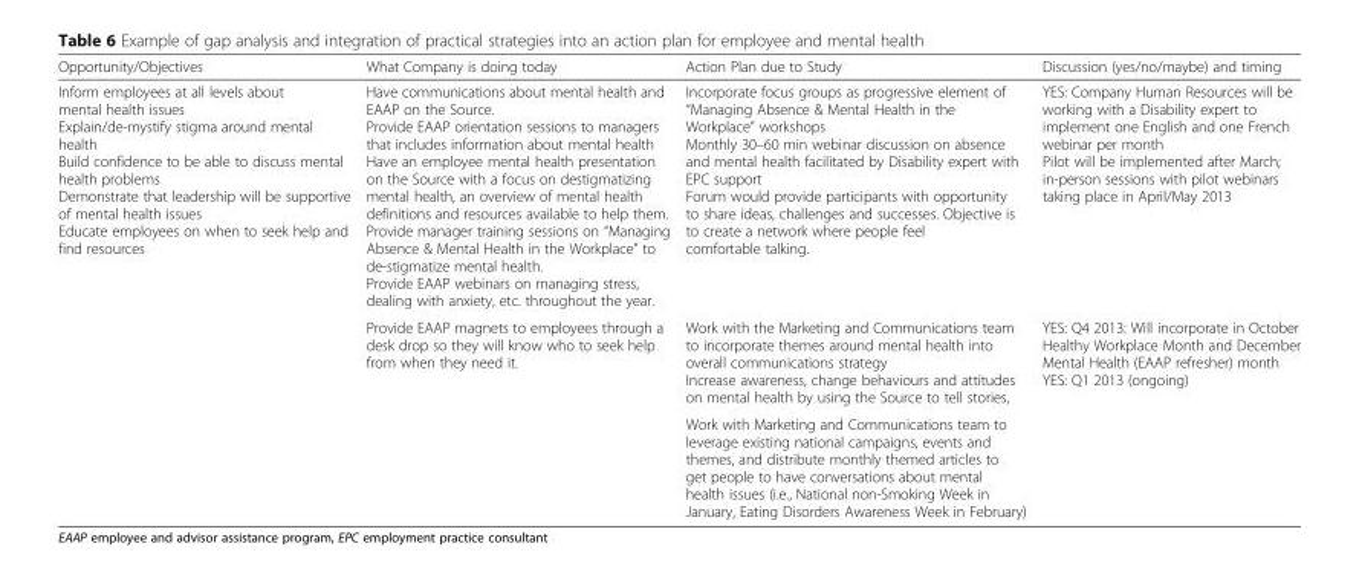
<table><thead><tr><td>Opportunity/Objectives</td><td>What Company is doing today</td><td>Action Plan due to Study</td><td>Discussion (yes/no/maybe) and timing</td></tr></thead><tbody><tr><td rowspan="3">Inform employees at all levels about mental health issues Explain/de-mystify stigma around mental health Build confidence to be able to discuss mental health problems Demonstrate that leadership will be supportive of mental health issues Educate employees on when to seek help and find resources</td><td>Have communications about mental health and EAAP on the Source. Provide EAAP orientation sessions to managers that includes information about mental health Have an employee mental health presentation on the Source with a focus on destigmatizing mental health, an overview of mental health definitions and resources available to help them. Provide manager training sessions on “Managing Absence &amp; Mental Health in the Workplace” to de-stigmatize mental health. Provide EAAP webinars on managing stress, dealing with anxiety, etc. throughout the year.</td><td>Incorporate focus groups as progressive element of “Managing Absence &amp; Mental Health in the Workplace” workshops Monthly 30–60 min webinar discussion on absence and mental health facilitated by Disability expert with EPC support Forum would provide participants with opportunity to share ideas, challenges and successes. Objective is to create a network where people feel comfortable talking.</td><td>YES: Company Human Resources will be working with a Disability expert to implement one English and one French webinar per month Pilot will be implemented after March; in-person sessions with pilot webinars taking place in April/May 2013</td></tr><tr><td>Provide EAAP magnets to employees through a desk drop so they will know who to seek help from when they need it.</td><td>Work with the Marketing and Communications team to incorporate themes around mental health into overall communications strategy Increase awareness, change behaviours and attitudes on mental health by using the Source to tell stories,</td><td>YES: Q4 2013: Will incorporate in October Healthy Workplace Month and December Mental Health (EAAP refresher) month YES: Q1 2013 (ongoing)</td></tr><tr><td></td><td>Work with Marketing and Communications team to leverage existing national campaigns, events and themes, and distribute monthly themed articles to get people to have conversations about mental health issues (i.e., National non-Smoking Week in January, Eating Disorders Awareness Week in February)</td><td></td></tr></tbody></table>